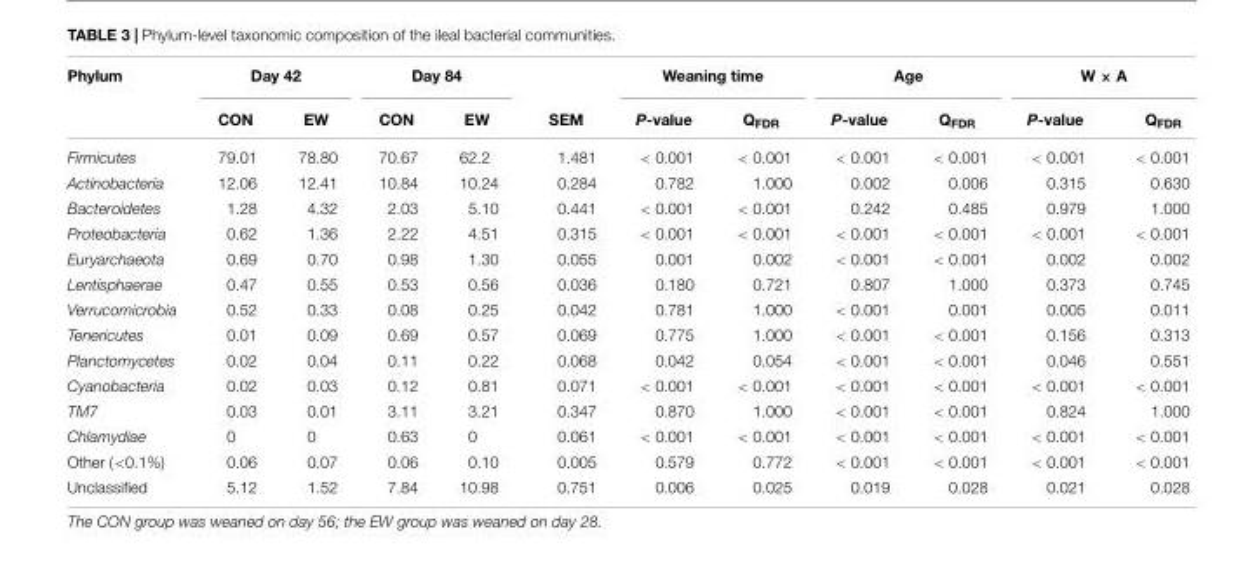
<table><thead><tr><td rowspan="2">Phylum</td><td colspan="2">Day 42</td><td colspan="2">Day 84</td><td rowspan="2">SEM</td><td colspan="2">Weaning time</td><td colspan="2">Age</td><td colspan="2">W × A</td></tr><tr><td>CON</td><td>EW</td><td>CON</td><td>EW</td><td>P-value</td><td>Q<sub>FDR</sub></td><td>P-value</td><td>Q<sub>FDR</sub></td><td>P-value</td><td>Q<sub>FDR</sub></td></tr></thead><tbody><tr><td>Firmicutes</td><td>79.01</td><td>78.80</td><td>70.67</td><td>62.2</td><td>1.481</td><td>&lt; 0.001</td><td>&lt; 0.001</td><td>&lt; 0.001</td><td>&lt; 0.001</td><td>&lt; 0.001</td><td>&lt; 0.001</td></tr><tr><td>Actinobacteria</td><td>12.06</td><td>12.41</td><td>10.84</td><td>10.24</td><td>0.284</td><td>0.782</td><td>1.000</td><td>0.002</td><td>0.006</td><td>0.315</td><td>0.630</td></tr><tr><td>Bacteroidetes</td><td>1.28</td><td>4.32</td><td>2.03</td><td>5.10</td><td>0.441</td><td>&lt; 0.001</td><td>&lt; 0.001</td><td>0.242</td><td>0.485</td><td>0.979</td><td>1.000</td></tr><tr><td>Proteobacteria</td><td>0.62</td><td>1.36</td><td>2.22</td><td>4.51</td><td>0.315</td><td>&lt; 0.001</td><td>&lt; 0.001</td><td>&lt; 0.001</td><td>&lt; 0.001</td><td>&lt; 0.001</td><td>&lt; 0.001</td></tr><tr><td>Euryarchaeota</td><td>0.69</td><td>0.70</td><td>0.98</td><td>1.30</td><td>0.055</td><td>0.001</td><td>0.002</td><td>&lt; 0.001</td><td>&lt; 0.001</td><td>0.002</td><td>0.002</td></tr><tr><td>Lentisphaerae</td><td>0.47</td><td>0.55</td><td>0.53</td><td>0.56</td><td>0.036</td><td>0.180</td><td>0.721</td><td>0.807</td><td>1.000</td><td>0.373</td><td>0.745</td></tr><tr><td>Verrucomicrobia</td><td>0.52</td><td>0.33</td><td>0.08</td><td>0.25</td><td>0.042</td><td>0.781</td><td>1.000</td><td>&lt; 0.001</td><td>0.001</td><td>0.005</td><td>0.011</td></tr><tr><td>Tenericutes</td><td>0.01</td><td>0.09</td><td>0.69</td><td>0.57</td><td>0.069</td><td>0.775</td><td>1.000</td><td>&lt; 0.001</td><td>&lt; 0.001</td><td>0.156</td><td>0.313</td></tr><tr><td>Planctomycetes</td><td>0.02</td><td>0.04</td><td>0.11</td><td>0.22</td><td>0.068</td><td>0.042</td><td>0.054</td><td>&lt; 0.001</td><td>&lt; 0.001</td><td>0.046</td><td>0.551</td></tr><tr><td>Cyanobacteria</td><td>0.02</td><td>0.03</td><td>0.12</td><td>0.81</td><td>0.071</td><td>&lt; 0.001</td><td>&lt; 0.001</td><td>&lt; 0.001</td><td>&lt; 0.001</td><td>&lt; 0.001</td><td>&lt; 0.001</td></tr><tr><td>TM7</td><td>0.03</td><td>0.01</td><td>3.11</td><td>3.21</td><td>0.347</td><td>0.870</td><td>1.000</td><td>&lt; 0.001</td><td>&lt; 0.001</td><td>0.824</td><td>1.000</td></tr><tr><td>Chlamydiae</td><td>0</td><td>0</td><td>0.63</td><td>0</td><td>0.061</td><td>&lt; 0.001</td><td>&lt; 0.001</td><td>&lt; 0.001</td><td>&lt; 0.001</td><td>&lt; 0.001</td><td>&lt; 0.001</td></tr><tr><td>Other (&lt;0.1%)</td><td>0.06</td><td>0.07</td><td>0.06</td><td>0.10</td><td>0.005</td><td>0.579</td><td>0.772</td><td>&lt; 0.001</td><td>&lt; 0.001</td><td>&lt; 0.001</td><td>&lt; 0.001</td></tr><tr><td>Unclassified</td><td>5.12</td><td>1.52</td><td>7.84</td><td>10.98</td><td>0.751</td><td>0.006</td><td>0.025</td><td>0.019</td><td>0.028</td><td>0.021</td><td>0.028</td></tr></tbody></table>